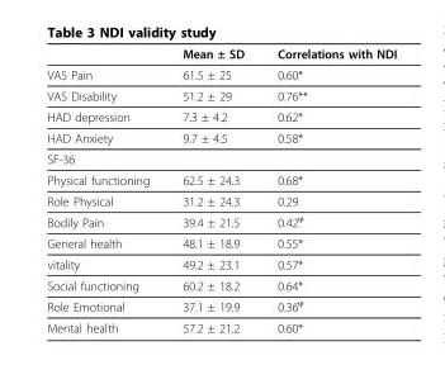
<table><thead><tr><td></td><td>Mean ± SD</td><td>Correlations with NDI</td></tr></thead><tbody><tr><td>VAS Pain</td><td>61.5 ± 25</td><td>0.60*</td></tr><tr><td>VAS Disability</td><td>51.2 ± 29</td><td>0.76**</td></tr><tr><td>HAD depression</td><td>7.3 ± 4.2</td><td>0.62*</td></tr><tr><td>HAD Anxiety</td><td>9.7 ± 4.5</td><td>0.58*</td></tr><tr><td colspan="3">SF-36</td></tr><tr><td>Physical functioning</td><td>62.5 ± 24.3</td><td>0.68*</td></tr><tr><td>Role Physical</td><td>31.2 ± 24.3</td><td>0.29</td></tr><tr><td>Bodily Pain</td><td>39.4 ± 21.5</td><td>0.42<sup>ϕ</sup></td></tr><tr><td>General health</td><td>48.1 ± 18.9</td><td>0.55*</td></tr><tr><td>vitality</td><td>49.2 ± 23.1</td><td>0.57*</td></tr><tr><td>Social functioning</td><td>60.2 ± 18.2</td><td>0.64*</td></tr><tr><td>Role Emotional</td><td>37.1 ± 19.9</td><td>0.36<sup>ϕ</sup></td></tr><tr><td>Mental health</td><td>57.2 ± 21.2</td><td>0.60*</td></tr></tbody></table>